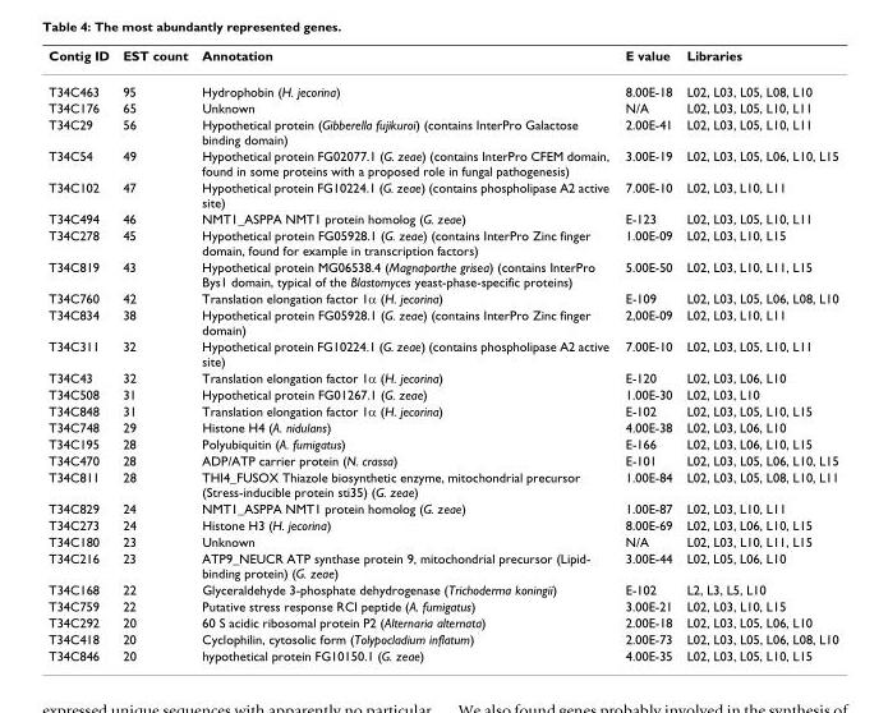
<table><thead><tr><td>Contig ID</td><td>EST count</td><td>Annotation</td><td>E value</td><td>Libraries</td></tr></thead><tbody><tr><td>T34C463</td><td>95</td><td>Hydrophobin (H. jecorina)</td><td>8.00E-18</td><td>L02, L03, L05, L08, L10</td></tr><tr><td>T34C176</td><td>65</td><td>Unknown</td><td>N/A</td><td>L02, L03, L05, L10, L11</td></tr><tr><td>T34C29</td><td>56</td><td>Hypothetical protein (Gibberella fujikuroi) (contains InterPro Galactose binding domain)</td><td>2.00E-41</td><td>L02, L03, L05, L10, L11</td></tr><tr><td>T34C54</td><td>49</td><td>Hypothetical protein FG02077.1 (G. zeae) (contains InterPro CFEM domain, found in some proteins with a proposed role in fungal pathogenesis)</td><td>3.00E-19</td><td>L02, L03, L05, L06, L10, L15</td></tr><tr><td>T34C102</td><td>47</td><td>Hypothetical protein FG10224.1 (G. zeae) (contains phospholipase A2 active site)</td><td>7.00E-10</td><td>L02, L03, L10, L11</td></tr><tr><td>T34C494</td><td>46</td><td>NMT1_ASPPA NMT1 protein homolog (G. zeae)</td><td>E-123</td><td>L02, L03, L05, L10, L11</td></tr><tr><td>T34C278</td><td>45</td><td>Hypothetical protein FG05928.1 (G. zeae) (contains InterPro Zinc finger domain, found for example in transcription factors)</td><td>1.00E-09</td><td>L02, L03, L10, L15</td></tr><tr><td>T34C819</td><td>43</td><td>Hypothetical protein MG06538.4 (Magnaporthe grisea) (contains InterPro Bys1 domain, typical of the Blastomyces yeast-phase-specific proteins)</td><td>5.00E-50</td><td>L02, L03, L10, L11, L15</td></tr><tr><td>T34C760</td><td>42</td><td>Translation elongation factor 1α (H. jecorina)</td><td>E-109</td><td>L02, L03, L05, L06, L08, L10</td></tr><tr><td>T34C834</td><td>38</td><td>Hypothetical protein FG05928.1 (G. zeae) (contains InterPro Zinc finger domain)</td><td>2,00E-09</td><td>L02, L03, L10, L11</td></tr><tr><td>T34C311</td><td>32</td><td>Hypothetical protein FG10224.1 (G. zeae) (contains phospholipase A2 active site)</td><td>7.00E-10</td><td>L02, L03, L05, L10, L11</td></tr><tr><td>T34C43</td><td>32</td><td>Translation elongation factor 1α (H. jecorina)</td><td>E-120</td><td>L02, L03, L06, L10</td></tr><tr><td>T34C508</td><td>31</td><td>Hypothetical protein FG01267.1 (G. zeae)</td><td>1.00E-30</td><td>L02, L03, L10</td></tr><tr><td>T34C848</td><td>31</td><td>Translation elongation factor 1α (H. jecorina)</td><td>E-102</td><td>L02, L03, L05, L10, L15</td></tr><tr><td>T34C748</td><td>29</td><td>Histone H4 (A. nidulans)</td><td>4.00E-38</td><td>L02, L03, L06, L10</td></tr><tr><td>T34C195</td><td>28</td><td>Polyubiquitin (A. fumigatus)</td><td>E-166</td><td>L02, L03, L06, L10, L15</td></tr><tr><td>T34C470</td><td>28</td><td>ADP/ATP carrier protein (N. crassa)</td><td>E-101</td><td>L02, L03, L05, L06, L10, L15</td></tr><tr><td>T34C811</td><td>28</td><td>THI4_FUSOX Thiazole biosynthetic enzyme, mitochondrial precursor (Stress-inducible protein sti35) (G. zeae)</td><td>1.00E-84</td><td>L02, L03, L05, L08, L10, L11</td></tr><tr><td>T34C829</td><td>24</td><td>NMT1_ASPPA NMT1 protein homolog (G. zeae)</td><td>1.00E-87</td><td>L02, L03, L10, L11</td></tr><tr><td>T34C273</td><td>24</td><td>Histone H3 (H. jecorina)</td><td>8.00E-69</td><td>L02, L03, L06, L10, L15</td></tr><tr><td>T34C180</td><td>23</td><td>Unknown</td><td>N/A</td><td>L02, L03, L10, L11, L15</td></tr><tr><td>T34C216</td><td>23</td><td>ATP9_NEUCR ATP synthase protein 9, mitochondrial precursor (Lipid- binding protein) (G. zeae)</td><td>3.00E-44</td><td>L02, L05, L06, L10</td></tr><tr><td>T34C168</td><td>22</td><td>Glyceraldehyde 3-phosphate dehydrogenase (Trichoderma koningii)</td><td>E-102</td><td>L2, L3, L5, L10</td></tr><tr><td>T34C759</td><td>22</td><td>Putative stress response RCI peptide (A. fumigatus)</td><td>3.00E-21</td><td>L02, L03, L10, L15</td></tr><tr><td>T34C292</td><td>20</td><td>60 S acidic ribosomal protein P2 (Alternaria alternata)</td><td>2.00E-18</td><td>L02, L03, L05, L06, L10</td></tr><tr><td>T34C418</td><td>20</td><td>Cyclophilin, cytosolic form (Tolypocladium inflatum)</td><td>2.00E-73</td><td>L02, L03, L05, L06, L08, L10</td></tr><tr><td>T34C846</td><td>20</td><td>hypothetical protein FG10150.1 (G. zeae)</td><td>4.00E-35</td><td>L02, L03, L05, L10, L15</td></tr></tbody></table>